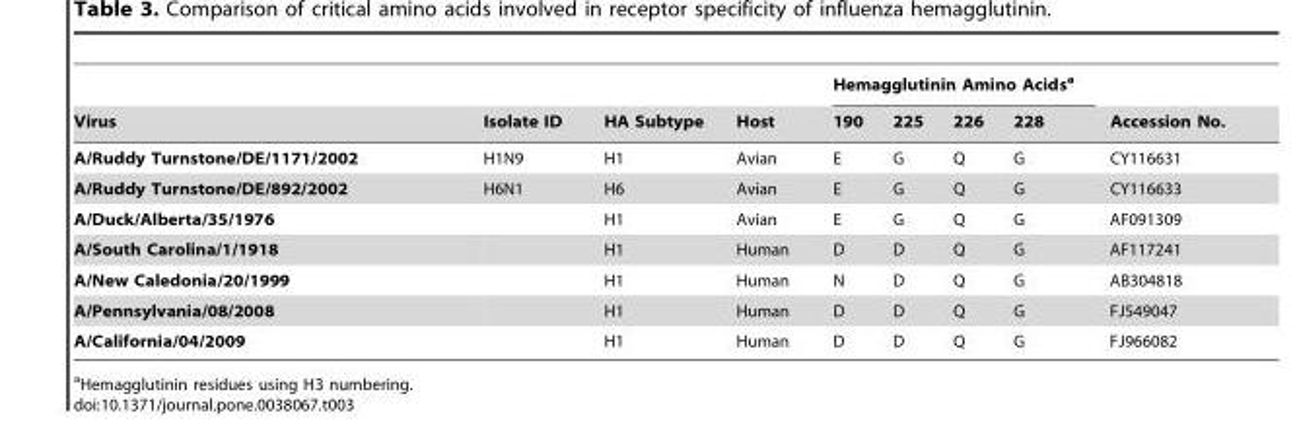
<table><thead><tr><td rowspan="2">Virus</td><td rowspan="2">Isolate ID</td><td rowspan="2">HA Subtype</td><td rowspan="2">Host</td><td colspan="4">Hemagglutinin Amino Acids<sup>a</sup></td><td rowspan="2">Accession No.</td></tr><tr><td>190</td><td>225</td><td>226</td><td>228</td></tr></thead><tbody><tr><td>A/Ruddy Turnstone/DE/1171/2002</td><td>H1N9</td><td>H1</td><td>Avian</td><td>E</td><td>G</td><td>Q</td><td>G</td><td>CY116631</td></tr><tr><td>A/Ruddy Turnstone/DE/892/2002</td><td>H6N1</td><td>H6</td><td>Avian</td><td>E</td><td>G</td><td>Q</td><td>G</td><td>CY116633</td></tr><tr><td>A/Duck/Alberta/35/1976</td><td></td><td>H1</td><td>Avian</td><td>E</td><td>G</td><td>Q</td><td>G</td><td>AF091309</td></tr><tr><td>A/South Carolina/1/1918</td><td></td><td>H1</td><td>Human</td><td>D</td><td>D</td><td>Q</td><td>G</td><td>AF117241</td></tr><tr><td>A/New Caledonia/20/1999</td><td></td><td>H1</td><td>Human</td><td>N</td><td>D</td><td>Q</td><td>G</td><td>AB304818</td></tr><tr><td>A/Pennsylvania/08/2008</td><td></td><td>H1</td><td>Human</td><td>D</td><td>D</td><td>Q</td><td>G</td><td>FJ549047</td></tr><tr><td>A/California/04/2009</td><td></td><td>H1</td><td>Human</td><td>D</td><td>D</td><td>Q</td><td>G</td><td>FJ966082</td></tr></tbody></table>